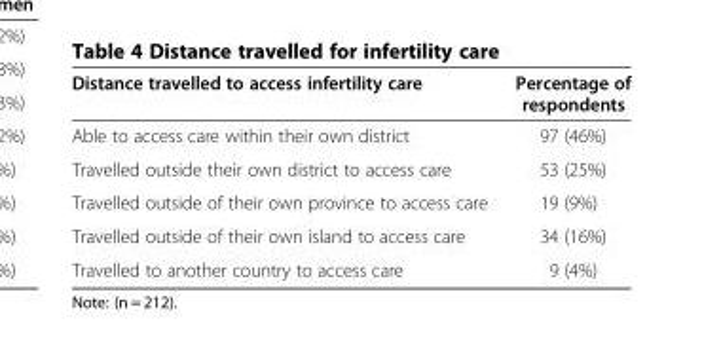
<table><thead><tr><td>Distance travelled to access infertility care</td><td>Percentage of respondents</td></tr></thead><tbody><tr><td>Able to access care within their own district</td><td>97 (46%)</td></tr><tr><td>Travelled outside their own district to access care</td><td>53 (25%)</td></tr><tr><td>Travelled outside of their own province to access care</td><td>19 (9%)</td></tr><tr><td>Travelled outside of their own island to access care</td><td>34 (16%)</td></tr><tr><td>Travelled to another country to access care</td><td>9 (4%)</td></tr></tbody></table>